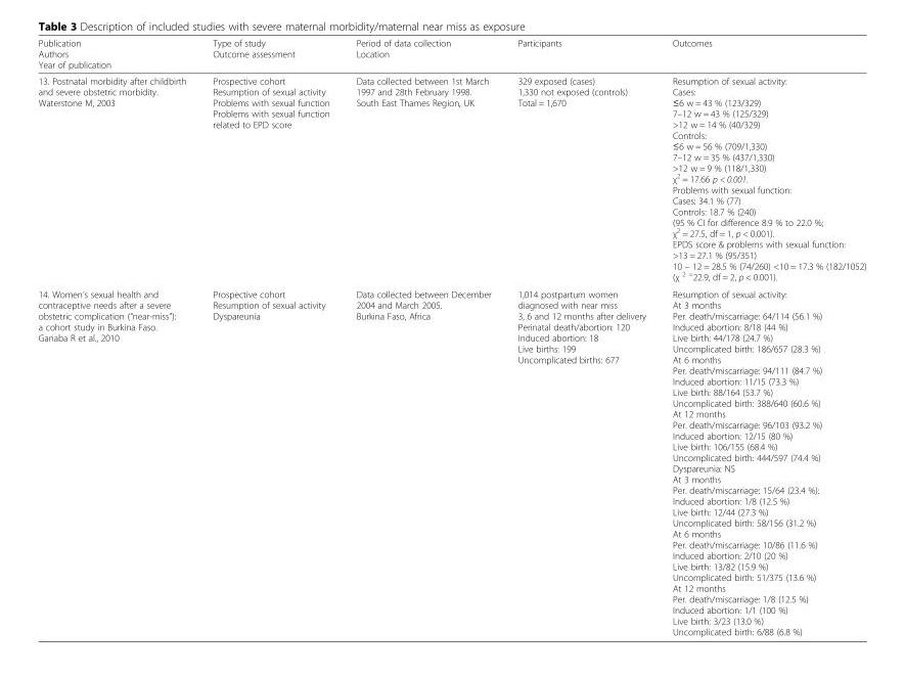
<table><thead><tr><td>Publication Authors Year of publication</td><td>Type of study Outcome assessment</td><td>Period of data collection Location</td><td>Participants</td><td>Outcomes</td></tr></thead><tbody><tr><td>13. Postnatal morbidity after childbirth and severe obstetric morbidity. Waterstone M, 2003</td><td>Prospective cohort Resumption of sexual activity Problems with sexual function Problems with sexual function related to EPD score</td><td>Data collected between 1st March 1997 and 28th February 1998. South East Thames Region, UK</td><td>329 exposed (cases) 1,330 not exposed (controls) Total = 1,670</td><td>Resumption of sexual activity: Cases: ≤6 w = 43 % (123/329) 7–12 w = 43 % (125/329) &gt;12 w = 14 % (40/329) Controls: ≤6 w = 56 % (709/1,330) 7–12 w = 35 % (437/1,330) &gt;12 w = 9 % (118/1,330) χ<sup>2</sup> = 17.66 p &lt; 0.001. Problems with sexual function: Cases: 34.1 % (77) Controls: 18.7 % (240) (95 % CI for difference 8.9 % to 22.0 %; χ<sup>2</sup> = 27.5, df = 1, p &lt; 0.001). EPDS score &amp; problems with sexual function: &gt;13 = 27.1 % (95/351) 10 – 12 = 28.5 % (74/260) &lt;10 = 17.3 % (182/1052) (χ <sup>2 =</sup>22.9, df = 2, p &lt; 0.001).</td></tr><tr><td>14. Women’s sexual health and contraceptive needs after a severe obstetric complication (“near-miss”): a cohort study in Burkina Faso. Ganaba R et al., 2010</td><td>Prospective cohort Resumption of sexual activity Dyspareunia</td><td>Data collected between December 2004 and March 2005. Burkina Faso, Africa</td><td>1,014 postpartum women diagnosed with near miss 3, 6 and 12 months after delivery Perinatal death/abortion: 120 Induced abortion: 18 Live births: 199 Uncomplicated births: 677</td><td>Resumption of sexual activity: At 3 months Per. death/miscarriage: 64/114 (56.1 %) Induced abortion: 8/18 (44 %) Live birth: 44/178 (24.7 %) Uncomplicated birth: 186/657 (28.3 %) At 6 months Per. death/miscarriage: 94/111 (84.7 %) Induced abortion: 11/15 (73.3 %) Live birth: 88/164 (53.7 %) Uncomplicated birth: 388/640 (60.6 %) At 12 months Per. death/miscarriage: 96/103 (93.2 %) Induced abortion: 12/15 (80 %) Live birth: 106/155 (68.4 %) Uncomplicated birth: 444/597 (74.4 %) Dyspareunia: NS At 3 months Per. death/miscarriage: 15/64 (23.4 %): Induced abortion: 1/8 (12.5 %) Live birth: 12/44 (27.3 %) Uncomplicated birth: 58/156 (31.2 %) At 6 months Per. death/miscarriage: 10/86 (11.6 %) Induced abortion: 2/10 (20 %) Live birth: 13/82 (15.9 %) Uncomplicated birth: 51/375 (13.6 %) At 12 months Per. death/miscarriage: 1/8 (12.5 %) Induced abortion: 1/1 (100 %) Live birth: 3/23 (13.0 %) Uncomplicated birth: 6/88 (6.8 %)</td></tr></tbody></table>